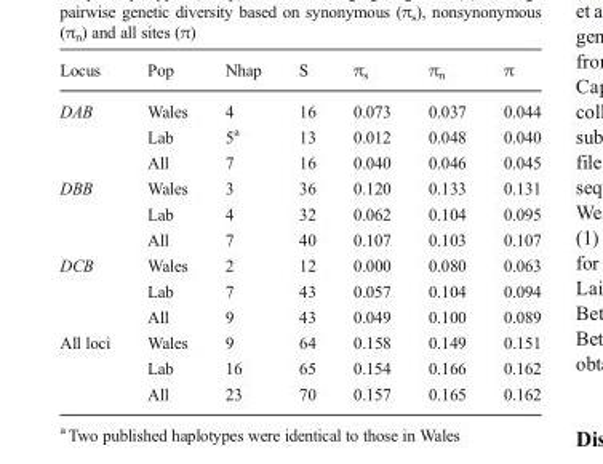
<table><thead><tr><td>Locus</td><td>Pop</td><td>Nhap</td><td>S</td><td>π<sub>s</sub></td><td>π<sub>n</sub></td><td>π</td></tr></thead><tbody><tr><td rowspan="3">DAB</td><td>Wales</td><td>4</td><td>16</td><td>0.073</td><td>0.037</td><td>0.044</td></tr><tr><td>Lab</td><td>5<sup>a</sup></td><td>13</td><td>0.012</td><td>0.048</td><td>0.040</td></tr><tr><td>All</td><td>7</td><td>16</td><td>0.040</td><td>0.046</td><td>0.045</td></tr><tr><td rowspan="3">DBB</td><td>Wales</td><td>3</td><td>36</td><td>0.120</td><td>0.133</td><td>0.131</td></tr><tr><td>Lab</td><td>4</td><td>32</td><td>0.062</td><td>0.104</td><td>0.095</td></tr><tr><td>All</td><td>7</td><td>40</td><td>0.107</td><td>0.103</td><td>0.107</td></tr><tr><td rowspan="3">DCB</td><td>Wales</td><td>2</td><td>12</td><td>0.000</td><td>0.080</td><td>0.063</td></tr><tr><td>Lab</td><td>7</td><td>43</td><td>0.057</td><td>0.104</td><td>0.094</td></tr><tr><td>All</td><td>9</td><td>43</td><td>0.049</td><td>0.100</td><td>0.089</td></tr><tr><td rowspan="3">All loci</td><td>Wales</td><td>9</td><td>64</td><td>0.158</td><td>0.149</td><td>0.151</td></tr><tr><td>Lab</td><td>16</td><td>65</td><td>0.154</td><td>0.166</td><td>0.162</td></tr><tr><td>All</td><td>23</td><td>70</td><td>0.157</td><td>0.165</td><td>0.162</td></tr></tbody></table>